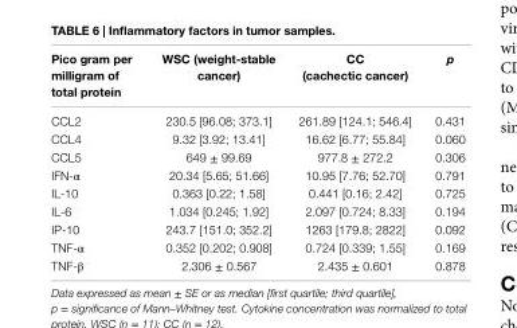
<table><thead><tr><td>Pico gram per milligram of total protein</td><td>Wsc (weight-stable cancer)</td><td>cc (cachectic cancer)</td><td>p</td></tr></thead><tbody><tr><td>CCL2</td><td>230.5 [96.08; 373.1]</td><td>261.89 [124.1; 546.4]</td><td>0.431</td></tr><tr><td>CCL4</td><td>9.32 [3.92; 13.41]</td><td>16.62 [6.77; 55.84]</td><td>0.060</td></tr><tr><td>CCL5</td><td>649 ± 99.69</td><td>977.8 ± 272.2</td><td>0.306</td></tr><tr><td>IFN-α</td><td>20.34 [5.65; 51.66]</td><td>10.95 [7.76; 52.70]</td><td>0.791</td></tr><tr><td>IL-10</td><td>0.363 [0.22; 1.58]</td><td>0.441 [0.16; 2.42]</td><td>0.725</td></tr><tr><td>IL-6</td><td>1.034 [0.245; 1.92]</td><td>2.097 [0.724; 8.33]</td><td>0.194</td></tr><tr><td>IP-10</td><td>243.7 [151.0; 352.2]</td><td>1263 [179.8; 2822]</td><td>0.092</td></tr><tr><td>TNF-α</td><td>0.352 [0.202; 0.908]</td><td>0.724 [0.339; 1.55]</td><td>0.169</td></tr><tr><td>TNF-β</td><td>2.306 ± 0.567</td><td>2.435 ± 0.601</td><td>0.878</td></tr></tbody></table>